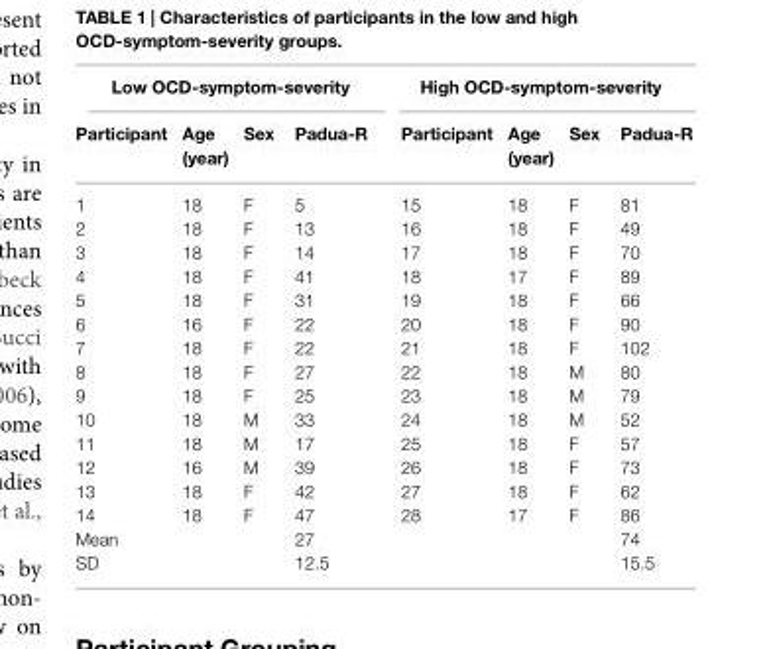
<table><thead><tr><td colspan="4">Low OCD-symptom-severity</td><td colspan="4">High OCD-symptom-severity</td></tr><tr><td>Participant</td><td>Age (year)</td><td>Sex</td><td>Padua-R</td><td>Participant</td><td>Age (year)</td><td>Sex</td><td>Padua-R</td></tr></thead><tbody><tr><td>1</td><td>18</td><td>F</td><td>5</td><td>15</td><td>18</td><td>F</td><td>81</td></tr><tr><td>2</td><td>18</td><td>F</td><td>13</td><td>16</td><td>18</td><td>F</td><td>49</td></tr><tr><td>3</td><td>18</td><td>F</td><td>14</td><td>17</td><td>18</td><td>F</td><td>70</td></tr><tr><td>4</td><td>18</td><td>F</td><td>41</td><td>18</td><td>17</td><td>F</td><td>89</td></tr><tr><td>5</td><td>18</td><td>F</td><td>31</td><td>19</td><td>18</td><td>F</td><td>66</td></tr><tr><td>6</td><td>16</td><td>F</td><td>22</td><td>20</td><td>18</td><td>F</td><td>90</td></tr><tr><td>7</td><td>18</td><td>F</td><td>22</td><td>21</td><td>18</td><td>F</td><td>102</td></tr><tr><td>8</td><td>18</td><td>F</td><td>27</td><td>22</td><td>18</td><td>M</td><td>80</td></tr><tr><td>9</td><td>18</td><td>F</td><td>25</td><td>23</td><td>18</td><td>M</td><td>79</td></tr><tr><td>10</td><td>18</td><td>M</td><td>33</td><td>24</td><td>18</td><td>M</td><td>52</td></tr><tr><td>11</td><td>18</td><td>M</td><td>17</td><td>25</td><td>18</td><td>F</td><td>57</td></tr><tr><td>12</td><td>16</td><td>M</td><td>39</td><td>26</td><td>18</td><td>F</td><td>73</td></tr><tr><td>13</td><td>18</td><td>F</td><td>42</td><td>27</td><td>18</td><td>F</td><td>62</td></tr><tr><td>14</td><td>18</td><td>F</td><td>47</td><td>28</td><td>17</td><td>F</td><td>86</td></tr><tr><td>Mean</td><td></td><td></td><td>27</td><td></td><td></td><td></td><td>74</td></tr><tr><td>SD</td><td></td><td></td><td>12.5</td><td></td><td></td><td></td><td>15.5</td></tr></tbody></table>